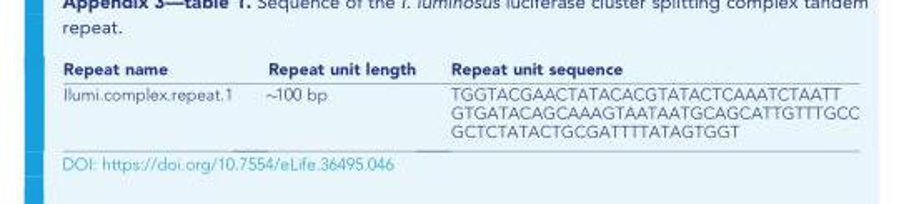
<table><thead><tr><td>Repeat name</td><td>Repeat unit length</td><td>Repeat unit sequence</td></tr></thead><tbody><tr><td>Ilumi.complex.repeat.1</td><td>~100 bp</td><td>TGGTACGAACTATACACGTATACTCAAATCTAATT GTGATACAGCAAAGTAATAATGCAGCATTGTTTGCC GCTCTATACTGCGATTTTATAGTGGT</td></tr></tbody></table>